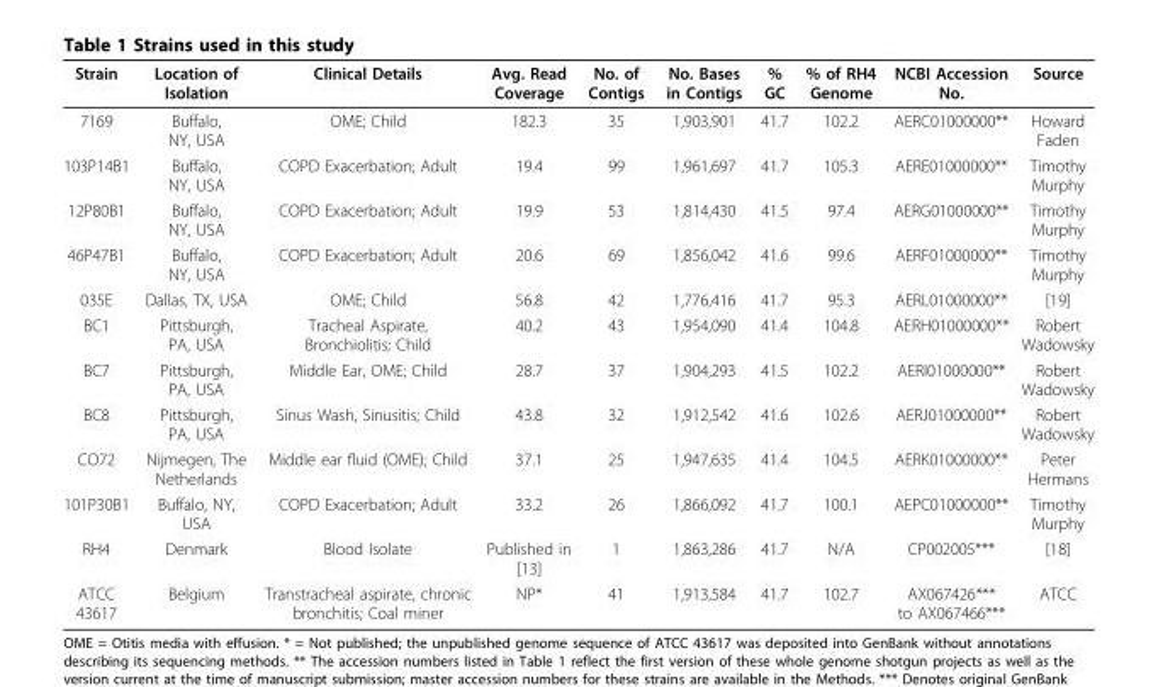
<table><thead><tr><td>Strain</td><td>Location of Isolation</td><td>Clinical Details</td><td>Avg. Read Coverage</td><td>No. of Contigs</td><td>No. Bases in Contigs</td><td>% GC</td><td>% of RH4 Genome</td><td>NCBI Accession No.</td><td>Source</td></tr></thead><tbody><tr><td>7169</td><td>Buffalo, NY, USA</td><td>OME; Child</td><td>182.3</td><td>35</td><td>1,903,901</td><td>41.7</td><td>102.2</td><td>AERC01000000**</td><td>Howard Faden</td></tr><tr><td>103P14B1</td><td>Buffalo, NY, USA</td><td>COPD Exacerbation; Adult</td><td>19.4</td><td>99</td><td>1,961,697</td><td>41.7</td><td>105.3</td><td>AERE01000000**</td><td>Timothy Murphy</td></tr><tr><td>12P80B1</td><td>Buffalo, NY, USA</td><td>COPD Exacerbation; Adult</td><td>19.9</td><td>53</td><td>1,814,430</td><td>41.5</td><td>97.4</td><td>AERG01000000**</td><td>Timothy Murphy</td></tr><tr><td>46P47B1</td><td>Buffalo, NY, USA</td><td>COPD Exacerbation; Adult</td><td>20.6</td><td>69</td><td>1,856,042</td><td>41.6</td><td>99.6</td><td>AERF01000000**</td><td>Timothy Murphy</td></tr><tr><td>035E</td><td>Dallas, TX, USA</td><td>OME; Child</td><td>56.8</td><td>42</td><td>1,776,416</td><td>41.7</td><td>95.3</td><td>AERL01000000**</td><td>[19]</td></tr><tr><td>BC1</td><td>Pittsburgh, PA, USA</td><td>Tracheal Aspirate, Bronchiolitis; Child</td><td>40.2</td><td>43</td><td>1,954,090</td><td>41.4</td><td>104.8</td><td>AERH01000000**</td><td>Robert Wadowsky</td></tr><tr><td>BC7</td><td>Pittsburgh, PA, USA</td><td>Middle Ear, OME; Child</td><td>28.7</td><td>37</td><td>1,904,293</td><td>41.5</td><td>102.2</td><td>AERI01000000**</td><td>Robert Wadowsky</td></tr><tr><td>BC8</td><td>Pittsburgh, PA, USA</td><td>Sinus Wash, Sinusitis; Child</td><td>43.8</td><td>32</td><td>1,912,542</td><td>41.6</td><td>102.6</td><td>AERJ01000000**</td><td>Robert Wadowsky</td></tr><tr><td>CO72</td><td>Nijmegen, The Netherlands</td><td>Middle ear fluid (OME); Child</td><td>37.1</td><td>25</td><td>1,947,635</td><td>41.4</td><td>104.5</td><td>AERK01000000**</td><td>Peter Hermans</td></tr><tr><td>101P30B1</td><td>Buffalo, NY, USA</td><td>COPD Exacerbation; Adult</td><td>33.2</td><td>26</td><td>1,866,092</td><td>41.7</td><td>100.1</td><td>AEPC01000000**</td><td>Timothy Murphy</td></tr><tr><td>RH4</td><td>Denmark</td><td>Blood Isolate</td><td>Published in [13]</td><td>1</td><td>1,863,286</td><td>41.7</td><td>N/A</td><td>CP002005***</td><td>[18]</td></tr><tr><td>ATCC 43617</td><td>Belgium</td><td>Transtracheal aspirate, chronic bronchitis; Coal miner</td><td>NP*</td><td>41</td><td>1,913,584</td><td>41.7</td><td>102.7</td><td>AX067426*** to AX067466***</td><td>ATCC</td></tr></tbody></table>